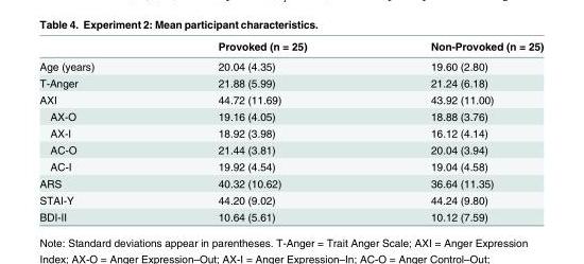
<table><thead><tr><td></td><td>Provoked (n = 25)</td><td>Non-Provoked (n = 25)</td></tr></thead><tbody><tr><td>Age (years)</td><td>20.04 (4.35)</td><td>19.60 (2.80)</td></tr><tr><td>T-Anger</td><td>21.88 (5.99)</td><td>21.24 (6.18)</td></tr><tr><td>AXI</td><td>44.72 (11.69)</td><td>43.92 (11.00)</td></tr><tr><td>AX-O</td><td>19.16 (4.05)</td><td>18.88 (3.76)</td></tr><tr><td>AX-I</td><td>18.92 (3.98)</td><td>16.12 (4.14)</td></tr><tr><td>AC-O</td><td>21.44 (3.81)</td><td>20.04 (3.94)</td></tr><tr><td>AC-I</td><td>19.92 (4.54)</td><td>19.04 (4.58)</td></tr><tr><td>ARS</td><td>40.32 (10.62)</td><td>36.64 (11.35)</td></tr><tr><td>STAI-Y</td><td>44.20 (9.02)</td><td>44.24 (9.80)</td></tr><tr><td>BDI-II</td><td>10.64 (5.61)</td><td>10.12 (7.59)</td></tr></tbody></table>